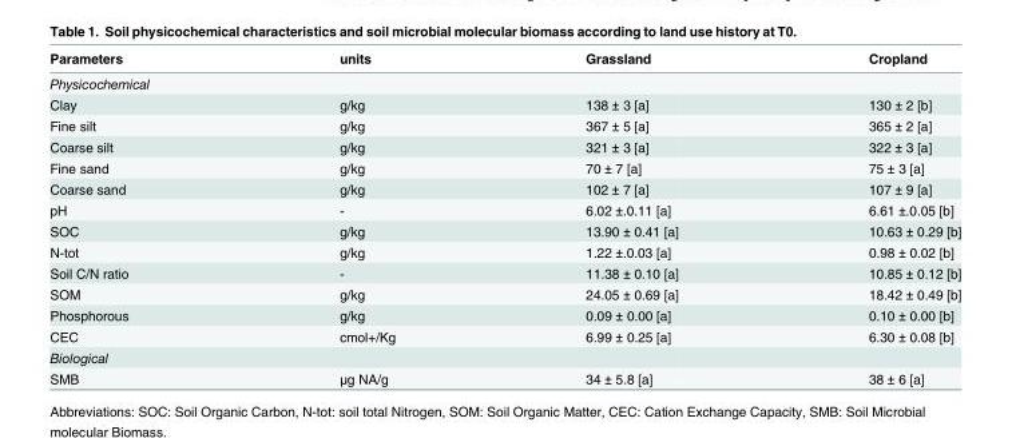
<table><thead><tr><td>Parameters</td><td>units</td><td>Grassland</td><td>Cropland</td></tr></thead><tbody><tr><td colspan="4">Physicochemical</td></tr><tr><td>Clay</td><td>g/kg</td><td>138 ± 3 [a]</td><td>130 ± 2 [b]</td></tr><tr><td>Fine silt</td><td>g/kg</td><td>367 ± 5 [a]</td><td>365 ± 2 [a]</td></tr><tr><td>Coarse silt</td><td>g/kg</td><td>321 ± 3 [a]</td><td>322 ± 3 [a]</td></tr><tr><td>Fine sand</td><td>g/kg</td><td>70 ± 7 [a]</td><td>75 ± 3 [a]</td></tr><tr><td>Coarse sand</td><td>g/kg</td><td>102 ± 7 [a]</td><td>107 ± 9 [a]</td></tr><tr><td>pH</td><td>-</td><td>6.02 ±.0.11 [a]</td><td>6.61 ±.0.05 [b]</td></tr><tr><td>SOC</td><td>g/kg</td><td>13.90 ± 0.41 [a]</td><td>10.63 ± 0.29 [b]</td></tr><tr><td>N-tot</td><td>g/kg</td><td>1.22 ±.0.03 [a]</td><td>0.98 ± 0.02 [b]</td></tr><tr><td>Soil C/N ratio</td><td>-</td><td>11.38 ± 0.10 [a]</td><td>10.85 ± 0.12 [b]</td></tr><tr><td>SOM</td><td>g/kg</td><td>24.05 ± 0.69 [a]</td><td>18.42 ± 0.49 [b]</td></tr><tr><td>Phosphorous</td><td>g/kg</td><td>0.09 ± 0.00 [a]</td><td>0.10 ± 0.00 [b]</td></tr><tr><td>CEC</td><td>cmol+/Kg</td><td>6.99 ± 0.25 [a]</td><td>6.30 ± 0.08 [b]</td></tr><tr><td colspan="4">Biological</td></tr><tr><td>SMB</td><td>μg NA/g</td><td>34 ± 5.8 [a]</td><td>38 ± 6 [a]</td></tr></tbody></table>